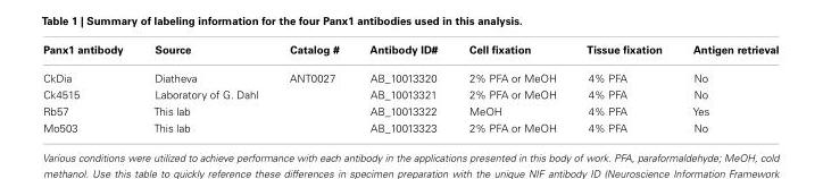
<table><thead><tr><td>Panx1 antibody</td><td>Source</td><td>Catalog #</td><td>Antibody ID#</td><td>Cell fixation</td><td>Tissue fixation</td><td>Antigen retrieval</td></tr></thead><tbody><tr><td>CkDia</td><td>Diatheva</td><td>ANT0027</td><td>AB_10013320</td><td>2% PFA or MeOH</td><td>4% PFA</td><td>No</td></tr><tr><td>Ck4515</td><td>Laboratory of G. Dahl</td><td></td><td>AB_10013321</td><td>2% PFA or MeOH</td><td>4% PFA</td><td>No</td></tr><tr><td>Rb57</td><td>This lab</td><td></td><td>AB_10013322</td><td>MeOH</td><td>4% PFA</td><td>Yes</td></tr><tr><td>Mo503</td><td>This lab</td><td></td><td>AB_10013323</td><td>2% PFA or MeOH</td><td>4% PFA</td><td>No</td></tr></tbody></table>